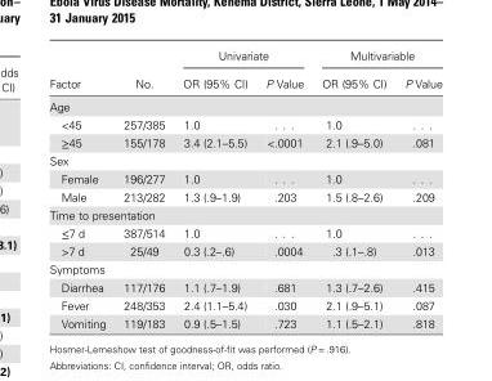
<table><thead><tr><td rowspan="2">Factor</td><td rowspan="2">No.</td><td colspan="2">Univariate</td><td colspan="2">Multivariable</td></tr><tr><td>OR (95% CI)</td><td>P Value</td><td>OR (95% CI)</td><td>P Value</td></tr></thead><tbody><tr><td colspan="6">Age</td></tr><tr><td>&lt;45</td><td>257/385</td><td>1.0</td><td>. . .</td><td>1.0</td><td>. . .</td></tr><tr><td>≥45</td><td>155/178</td><td>3.4 (2.1–5.5)</td><td>&lt;.0001</td><td>2.1 (.9–5.0)</td><td>.081</td></tr><tr><td colspan="6">Sex</td></tr><tr><td>Female</td><td>196/277</td><td>1.0</td><td>. . .</td><td>1.0</td><td>. . .</td></tr><tr><td>Male</td><td>213/282</td><td>1.3 (.9–1.9)</td><td>.203</td><td>1.5 (.8–2.6)</td><td>.209</td></tr><tr><td colspan="6">Time to presentation</td></tr><tr><td>≤7 d</td><td>387/514</td><td>1.0</td><td>. . .</td><td>1.0</td><td>. . .</td></tr><tr><td>&gt;7 d</td><td>25/49</td><td>0.3 (.2–.6)</td><td>.0004</td><td>.3 (.1–.8)</td><td>.013</td></tr><tr><td colspan="6">Symptoms</td></tr><tr><td>Diarrhea</td><td>117/176</td><td>1.1 (.7–1.9)</td><td>.681</td><td>1.3 (.7–2.6)</td><td>.415</td></tr><tr><td>Fever</td><td>248/353</td><td>2.4 (1.1–5.4)</td><td>.030</td><td>2.1 (.9–5.1)</td><td>.087</td></tr><tr><td>Vomiting</td><td>119/183</td><td>0.9 (.5–1.5)</td><td>.723</td><td>1.1 (.5–2.1)</td><td>.818</td></tr></tbody></table>